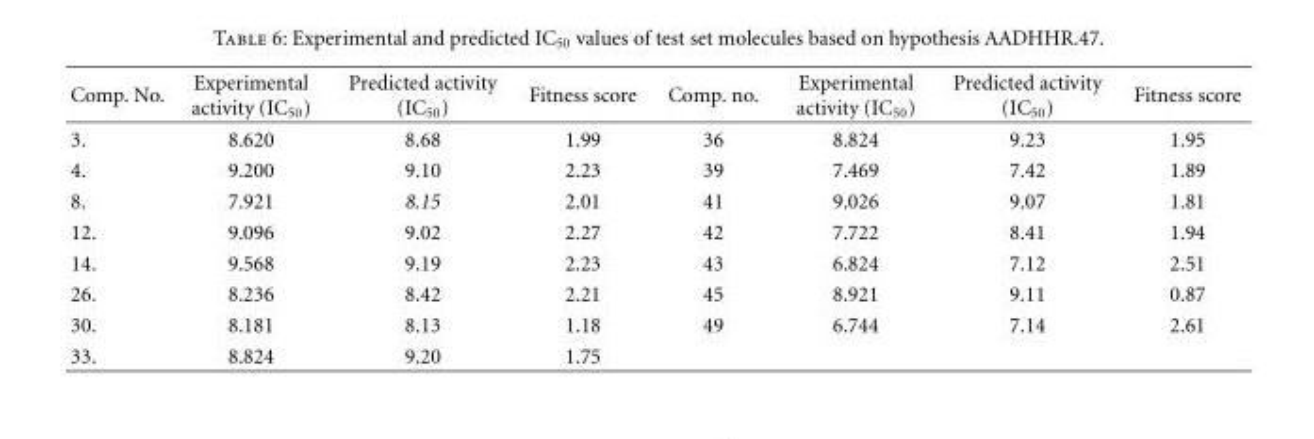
<table><thead><tr><td>Comp. No.</td><td>Experimental activity (IC<sub>50</sub>)</td><td>Predicted activity (IC<sub>50</sub>)</td><td>Fitness score</td><td>Comp. no.</td><td>Experimental activity (IC<sub>50</sub>)</td><td>Predicted activity (IC<sub>50</sub>)</td><td>Fitness score</td></tr></thead><tbody><tr><td>3.</td><td>8.620</td><td>8.68</td><td>1.99</td><td>36</td><td>8.824</td><td>9.23</td><td>1.95</td></tr><tr><td>4.</td><td>9.200</td><td>9.10</td><td>2.23</td><td>39</td><td>7.469</td><td>7.42</td><td>1.89</td></tr><tr><td>8.</td><td>7.921</td><td>8.15</td><td>2.01</td><td>41</td><td>9.026</td><td>9.07</td><td>1.81</td></tr><tr><td>12.</td><td>9.096</td><td>9.02</td><td>2.27</td><td>42</td><td>7.722</td><td>8.41</td><td>1.94</td></tr><tr><td>14.</td><td>9.568</td><td>9.19</td><td>2.23</td><td>43</td><td>6.824</td><td>7.12</td><td>2.51</td></tr><tr><td>26.</td><td>8.236</td><td>8.42</td><td>2.21</td><td>45</td><td>8.921</td><td>9.11</td><td>0.87</td></tr><tr><td>30.</td><td>8.181</td><td>8.13</td><td>1.18</td><td>49</td><td>6.744</td><td>7.14</td><td>2.61</td></tr><tr><td>33.</td><td>8.824</td><td>9.20</td><td>1.75</td><td></td><td></td><td></td><td></td></tr></tbody></table>